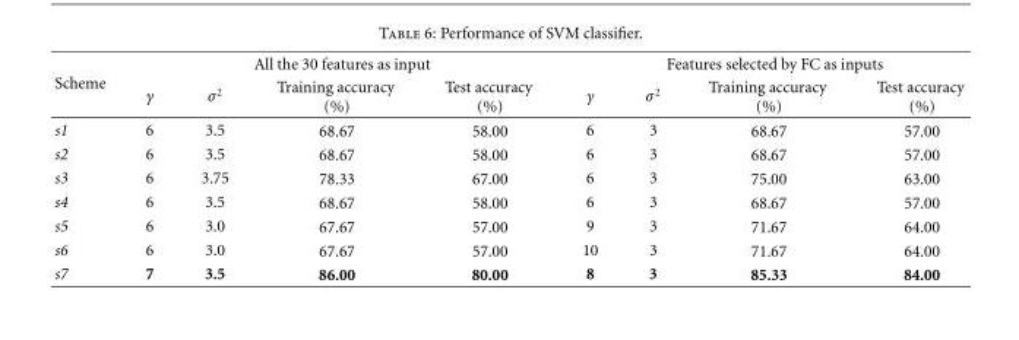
<table><thead><tr><td rowspan="2">Scheme</td><td colspan="4">All the 30 features as input</td><td colspan="4">Features selected by FC as inputs</td></tr><tr><td>γ</td><td>σ<sup>2</sup></td><td>Training accuracy (%)</td><td>Test accuracy (%)</td><td>γ</td><td>σ<sup>2</sup></td><td>Training accuracy (%)</td><td>Test accuracy (%)</td></tr></thead><tbody><tr><td>s1</td><td>6</td><td>3.5</td><td>68.67</td><td>58.00</td><td>6</td><td>3</td><td>68.67</td><td>57.00</td></tr><tr><td>s2</td><td>6</td><td>3.5</td><td>68.67</td><td>58.00</td><td>6</td><td>3</td><td>68.67</td><td>57.00</td></tr><tr><td>s3</td><td>6</td><td>3.75</td><td>78.33</td><td>67.00</td><td>6</td><td>3</td><td>75.00</td><td>63.00</td></tr><tr><td>s4</td><td>6</td><td>3.5</td><td>68.67</td><td>58.00</td><td>6</td><td>3</td><td>68.67</td><td>57.00</td></tr><tr><td>s5</td><td>6</td><td>3.0</td><td>67.67</td><td>57.00</td><td>9</td><td>3</td><td>71.67</td><td>64.00</td></tr><tr><td>s6</td><td>6</td><td>3.0</td><td>67.67</td><td>57.00</td><td>10</td><td>3</td><td>71.67</td><td>64.00</td></tr><tr><td>s7</td><td>7</td><td>3.5</td><td>86.00</td><td>80.00</td><td>8</td><td>3</td><td>85.33</td><td>84.00</td></tr></tbody></table>